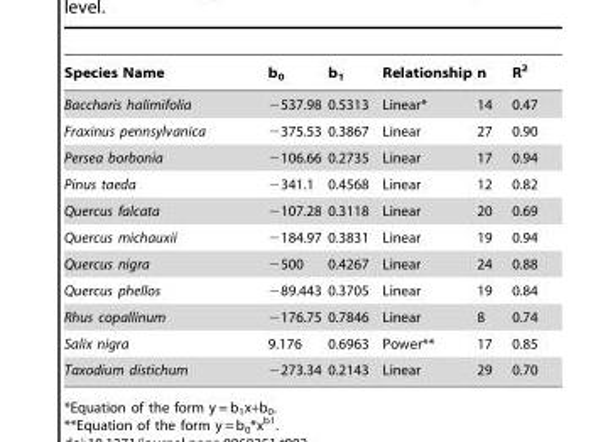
<table><thead><tr><td>Species Name</td><td>b<sub>0</sub></td><td>b<sub>1</sub></td><td>Relationship</td><td>n</td><td>R<sup>2</sup></td></tr></thead><tbody><tr><td>Baccharis halimifolia</td><td>−537.98</td><td>0.5313</td><td>Linear*</td><td>14</td><td>0.47</td></tr><tr><td>Fraxinus pennsylvanica</td><td>−375.53</td><td>0.3867</td><td>Linear</td><td>27</td><td>0.90</td></tr><tr><td>Persea borbonia</td><td>−106.66</td><td>0.2735</td><td>Linear</td><td>17</td><td>0.94</td></tr><tr><td>Pinus taeda</td><td>−341.1</td><td>0.4568</td><td>Linear</td><td>12</td><td>0.82</td></tr><tr><td>Quercus falcata</td><td>−107.28</td><td>0.3118</td><td>Linear</td><td>20</td><td>0.69</td></tr><tr><td>Quercus michauxii</td><td>−184.97</td><td>0.3831</td><td>Linear</td><td>19</td><td>0.94</td></tr><tr><td>Quercus nigra</td><td>−500</td><td>0.4267</td><td>Linear</td><td>24</td><td>0.88</td></tr><tr><td>Quercus phellos</td><td>−89.443</td><td>0.3705</td><td>Linear</td><td>19</td><td>0.84</td></tr><tr><td>Rhus copallinum</td><td>−176.75</td><td>0.7846</td><td>Linear</td><td>8</td><td>0.74</td></tr><tr><td>Salix nigra</td><td>9.176</td><td>0.6963</td><td>Power**</td><td>17</td><td>0.85</td></tr><tr><td>Taxodium distichum</td><td>−273.34</td><td>0.2143</td><td>Linear</td><td>29</td><td>0.70</td></tr></tbody></table>